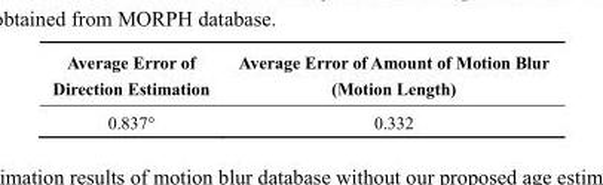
<table><thead><tr><td>Average Error of Direction Estimation</td><td>Average Error of Amount of Motion Blur (Motion Length)</td></tr></thead><tbody><tr><td>0.837°</td><td>0.332</td></tr></tbody></table>